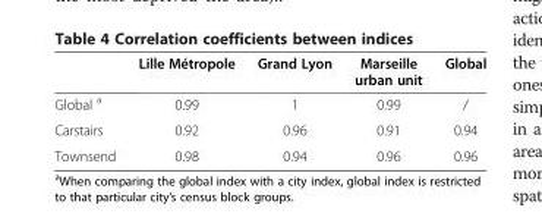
<table><thead><tr><td></td><td>Lille Métropole</td><td>Grand Lyon</td><td>Marseille urban unit</td><td>Global</td></tr></thead><tbody><tr><td>Global <sup>a</sup></td><td>0.99</td><td>1</td><td>0.99</td><td>/</td></tr><tr><td>Carstairs</td><td>0.92</td><td>0.96</td><td>0.91</td><td>0.94</td></tr><tr><td>Townsend</td><td>0.98</td><td>0.94</td><td>0.96</td><td>0.96</td></tr></tbody></table>